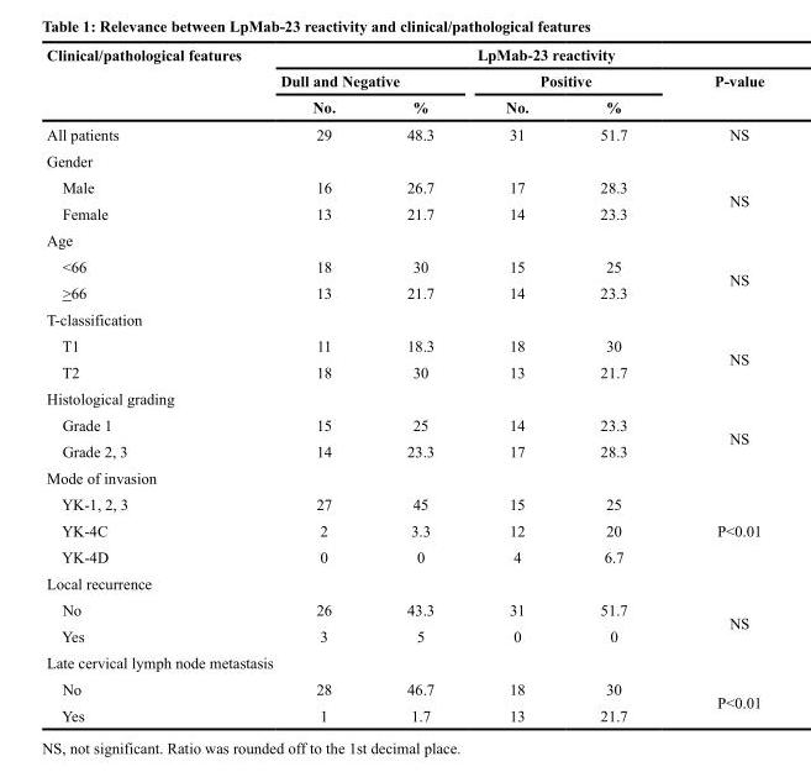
<table><thead><tr><td rowspan="3">Clinical/pathological features</td><td colspan="5">LpMab-23 reactivity</td></tr><tr><td colspan="2">Dull and Negative</td><td colspan="2">Positive</td><td rowspan="2">P-value</td></tr><tr><td>No.</td><td>%</td><td>No.</td><td>%</td></tr></thead><tbody><tr><td>All patients</td><td>29</td><td>48.3</td><td>31</td><td>51.7</td><td>NS</td></tr><tr><td colspan="6">Gender</td></tr><tr><td>Male</td><td>16</td><td>26.7</td><td>17</td><td>28.3</td><td rowspan="2">NS</td></tr><tr><td>Female</td><td>13</td><td>21.7</td><td>14</td><td>23.3</td></tr><tr><td colspan="6">Age</td></tr><tr><td>&lt;66</td><td>18</td><td>30</td><td>15</td><td>25</td><td rowspan="2">NS</td></tr><tr><td>&gt;66</td><td>13</td><td>21.7</td><td>14</td><td>23.3</td></tr><tr><td colspan="6">T-classification</td></tr><tr><td>T1</td><td>11</td><td>18.3</td><td>18</td><td>30</td><td rowspan="2">NS</td></tr><tr><td>T2</td><td>18</td><td>30</td><td>13</td><td>21.7</td></tr><tr><td colspan="6">Histological grading</td></tr><tr><td>Grade 1</td><td>15</td><td>25</td><td>14</td><td>23.3</td><td rowspan="2">NS</td></tr><tr><td>Grade 2, 3</td><td>14</td><td>23.3</td><td>17</td><td>28.3</td></tr><tr><td colspan="6">Mode of invasion</td></tr><tr><td>YK-1, 2, 3</td><td>27</td><td>45</td><td>15</td><td>25</td><td rowspan="3">P&lt;0.01</td></tr><tr><td>YK-4C</td><td>2</td><td>3.3</td><td>12</td><td>20</td></tr><tr><td>YK-4D</td><td>0</td><td>0</td><td>4</td><td>6.7</td></tr><tr><td colspan="6">Local recurrence</td></tr><tr><td>No</td><td>26</td><td>43.3</td><td>31</td><td>51.7</td><td rowspan="2">NS</td></tr><tr><td>Yes</td><td>3</td><td>5</td><td>0</td><td>0</td></tr><tr><td colspan="6">Late cervical lymph node metastasis</td></tr><tr><td>No</td><td>28</td><td>46.7</td><td>18</td><td>30</td><td rowspan="2">P&lt;0.01</td></tr><tr><td>Yes</td><td>1</td><td>1.7</td><td>13</td><td>21.7</td></tr></tbody></table>